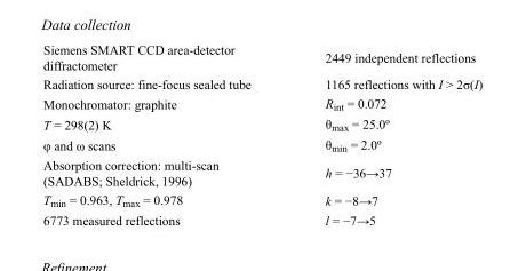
<table><tbody><tr><td>Siemens SMART CCD area-detector diffractometer</td><td>2449 independent reflections</td></tr><tr><td>Radiation source: fine-focus sealed tube</td><td>1165 reflections with I &gt; 2σ(I)</td></tr><tr><td>Monochromator: graphite</td><td>R<sub>int</sub> = 0.072</td></tr><tr><td>T = 298(2) K</td><td>θ<sub>max</sub> = 25.0º</td></tr><tr><td>φ and ω scans</td><td>θ<sub>min</sub> = 2.0º</td></tr><tr><td>Absorption correction: multi-scan (SADABS; Sheldrick, 1996)</td><td>h = −36→37</td></tr><tr><td>T<sub>min</sub> = 0.963, T<sub>max</sub> = 0.978</td><td>k = −8→7</td></tr><tr><td>6773 measured reflections</td><td>l = −7→5</td></tr></tbody></table>